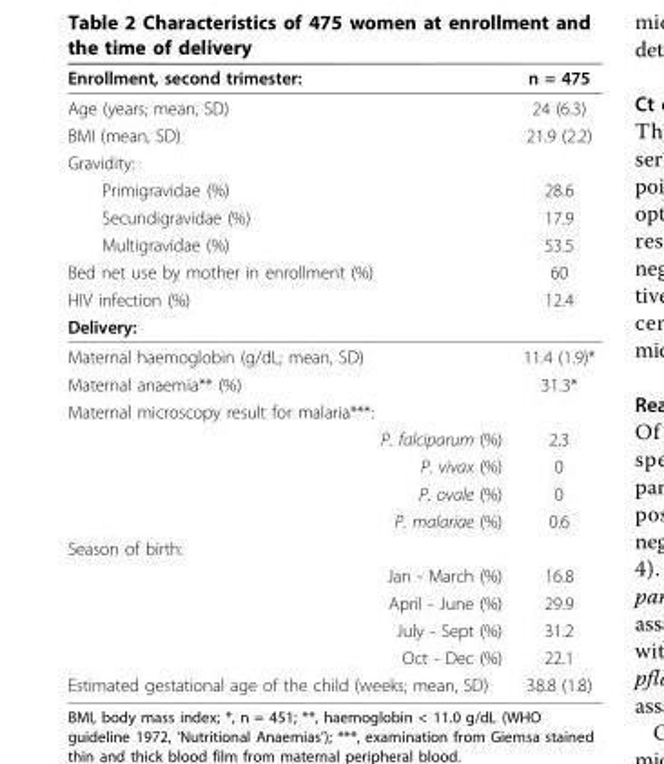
<table><thead><tr><td>Enrollment, second trimester:</td><td>n = 475</td></tr></thead><tbody><tr><td>Age (years; mean, SD)</td><td>24 (6.3)</td></tr><tr><td>BMI (mean, SD)</td><td>21.9 (2.2)</td></tr><tr><td colspan="2">Gravidity:</td></tr><tr><td>Primigravidae (%)</td><td>28.6</td></tr><tr><td>Secundigravidae (%)</td><td>17.9</td></tr><tr><td>Multigravidae (%)</td><td>53.5</td></tr><tr><td>Bed net use by mother in enrollment (%)</td><td>60</td></tr><tr><td>HIV infection (%)</td><td>12.4</td></tr><tr><td colspan="2">Delivery:</td></tr><tr><td>Maternal haemoglobin (g/dL; mean, SD)</td><td>11.4 (1.9)*</td></tr><tr><td>Maternal anaemia** (%)</td><td>31.3*</td></tr><tr><td colspan="2">Maternal microscopy result for malaria***:</td></tr><tr><td>P. falciparum (%)</td><td>2.3</td></tr><tr><td>P. vivax (%)</td><td>0</td></tr><tr><td>P. ovale (%)</td><td>0</td></tr><tr><td>P. malariae (%)</td><td>0.6</td></tr><tr><td colspan="2">Season of birth:</td></tr><tr><td>Jan - March (%)</td><td>16.8</td></tr><tr><td>April - June (%)</td><td>29.9</td></tr><tr><td>July - Sept (%)</td><td>31.2</td></tr><tr><td>Oct - Dec (%)</td><td>22.1</td></tr><tr><td>Estimated gestational age of the child (weeks; mean, SD)</td><td>38.8 (1.8)</td></tr></tbody></table>